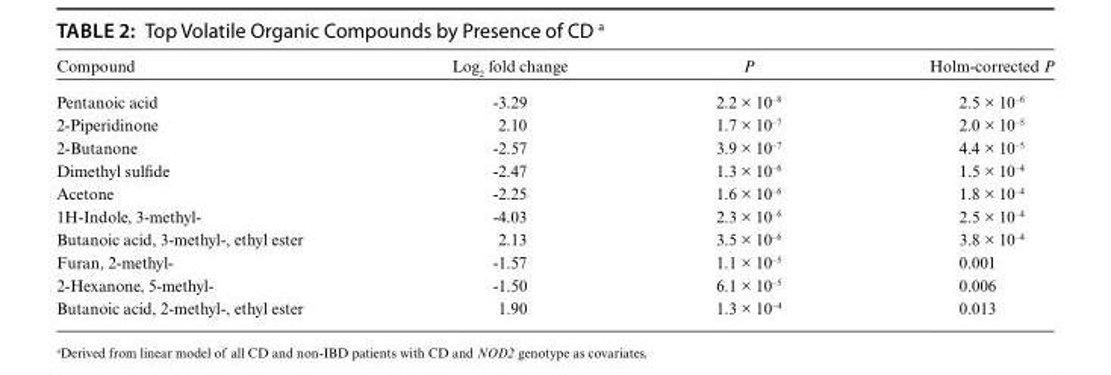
<table><thead><tr><td>Compound</td><td>Log<sub>2</sub> fold change</td><td>P</td><td>Holm-corrected P</td></tr></thead><tbody><tr><td>Pentanoic acid</td><td>-3.29</td><td>2.2 × 10<sup>–8</sup></td><td>2.5 × 10<sup>–6</sup></td></tr><tr><td>2-Piperidinone</td><td>2.10</td><td>1.7 × 10<sup>–7</sup></td><td>2.0 × 10<sup>–5</sup></td></tr><tr><td>2-Butanone</td><td>-2.57</td><td>3.9 × 10<sup>–7</sup></td><td>4.4 × 10<sup>–5</sup></td></tr><tr><td>Dimethyl sulfide</td><td>-2.47</td><td>1.3 × 10<sup>–6</sup></td><td>1.5 × 10<sup>–4</sup></td></tr><tr><td>Acetone</td><td>-2.25</td><td>1.6 × 10<sup>–6</sup></td><td>1.8 × 10<sup>–4</sup></td></tr><tr><td>1H-Indole, 3-methyl-</td><td>-4.03</td><td>2.3 × 10<sup>–6</sup></td><td>2.5 × 10<sup>–4</sup></td></tr><tr><td>Butanoic acid, 3-methyl-, ethyl ester</td><td>2.13</td><td>3.5 × 10<sup>–6</sup></td><td>3.8 × 10<sup>–4</sup></td></tr><tr><td>Furan, 2-methyl-</td><td>-1.57</td><td>1.1 × 10<sup>–5</sup></td><td>0.001</td></tr><tr><td>2-Hexanone, 5-methyl-</td><td>-1.50</td><td>6.1 × 10<sup>–5</sup></td><td>0.006</td></tr><tr><td>Butanoic acid, 2-methyl-, ethyl ester</td><td>1.90</td><td>1.3 × 10<sup>–4</sup></td><td>0.013</td></tr></tbody></table>